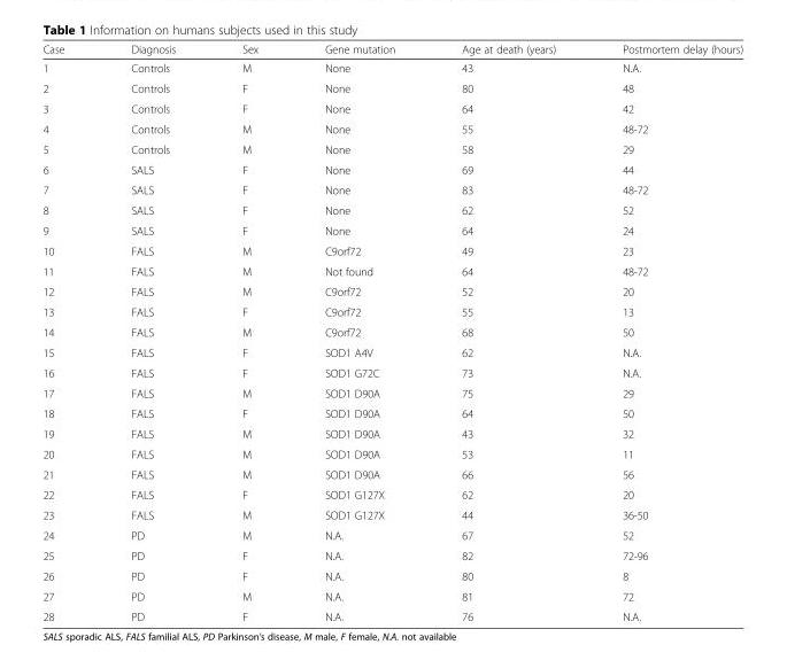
<table><thead><tr><td>Case</td><td>Diagnosis</td><td>Sex</td><td>Gene mutation</td><td>Age at death (years)</td><td>Postmortem delay (hours)</td></tr></thead><tbody><tr><td>1</td><td>Controls</td><td>M</td><td>None</td><td>43</td><td>N.A.</td></tr><tr><td>2</td><td>Controls</td><td>F</td><td>None</td><td>80</td><td>48</td></tr><tr><td>3</td><td>Controls</td><td>F</td><td>None</td><td>64</td><td>42</td></tr><tr><td>4</td><td>Controls</td><td>M</td><td>None</td><td>55</td><td>48-72</td></tr><tr><td>5</td><td>Controls</td><td>M</td><td>None</td><td>58</td><td>29</td></tr><tr><td>6</td><td>SALS</td><td>F</td><td>None</td><td>69</td><td>44</td></tr><tr><td>7</td><td>SALS</td><td>F</td><td>None</td><td>83</td><td>48-72</td></tr><tr><td>8</td><td>SALS</td><td>F</td><td>None</td><td>62</td><td>52</td></tr><tr><td>9</td><td>SALS</td><td>F</td><td>None</td><td>64</td><td>24</td></tr><tr><td>10</td><td>FALS</td><td>M</td><td>C9orf72</td><td>49</td><td>23</td></tr><tr><td>11</td><td>FALS</td><td>M</td><td>Not found</td><td>64</td><td>48-72</td></tr><tr><td>12</td><td>FALS</td><td>M</td><td>C9orf72</td><td>52</td><td>20</td></tr><tr><td>13</td><td>FALS</td><td>F</td><td>C9orf72</td><td>55</td><td>13</td></tr><tr><td>14</td><td>FALS</td><td>M</td><td>C9orf72</td><td>68</td><td>50</td></tr><tr><td>15</td><td>FALS</td><td>F</td><td>SOD1 A4V</td><td>62</td><td>N.A.</td></tr><tr><td>16</td><td>FALS</td><td>F</td><td>SOD1 G72C</td><td>73</td><td>N.A.</td></tr><tr><td>17</td><td>FALS</td><td>M</td><td>SOD1 D90A</td><td>75</td><td>29</td></tr><tr><td>18</td><td>FALS</td><td>F</td><td>SOD1 D90A</td><td>64</td><td>50</td></tr><tr><td>19</td><td>FALS</td><td>M</td><td>SOD1 D90A</td><td>43</td><td>32</td></tr><tr><td>20</td><td>FALS</td><td>M</td><td>SOD1 D90A</td><td>53</td><td>11</td></tr><tr><td>21</td><td>FALS</td><td>M</td><td>SOD1 D90A</td><td>66</td><td>56</td></tr><tr><td>22</td><td>FALS</td><td>F</td><td>SOD1 G127X</td><td>62</td><td>20</td></tr><tr><td>23</td><td>FALS</td><td>M</td><td>SOD1 G127X</td><td>44</td><td>36-50</td></tr><tr><td>24</td><td>PD</td><td>M</td><td>N.A.</td><td>67</td><td>52</td></tr><tr><td>25</td><td>PD</td><td>F</td><td>N.A.</td><td>82</td><td>72-96</td></tr><tr><td>26</td><td>PD</td><td>F</td><td>N.A.</td><td>80</td><td>8</td></tr><tr><td>27</td><td>PD</td><td>M</td><td>N.A.</td><td>81</td><td>72</td></tr><tr><td>28</td><td>PD</td><td>F</td><td>N.A.</td><td>76</td><td>N.A.</td></tr></tbody></table>